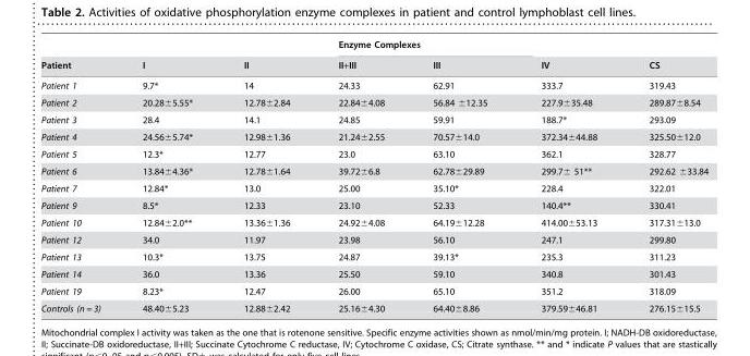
<table><thead><tr><td rowspan="2">Patient</td><td rowspan="2">I</td><td rowspan="2">II</td><td colspan="2">Enzyme Complexes</td><td rowspan="2">IV</td><td rowspan="2">CS</td></tr><tr><td>II+III</td><td>III</td></tr></thead><tbody><tr><td>Patient 1</td><td>9.7*</td><td>14</td><td>24.33</td><td>62.91</td><td>333.7</td><td>319.43</td></tr><tr><td>Patient 2</td><td>20.28±5.55*</td><td>12.78±2.84</td><td>22.84±4.08</td><td>56.84 ±12.35</td><td>227.9±35.48</td><td>289.87±8.54</td></tr><tr><td>Patient 3</td><td>28.4</td><td>14.1</td><td>24.85</td><td>59.91</td><td>188.7*</td><td>293.09</td></tr><tr><td>Patient 4</td><td>24.56±5.74*</td><td>12.98±1.36</td><td>21.24±2.55</td><td>70.57±14.0</td><td>372.34±44.88</td><td>325.50±12.0</td></tr><tr><td>Patient 5</td><td>12.3*</td><td>12.77</td><td>23.0</td><td>63.10</td><td>362.1</td><td>328.77</td></tr><tr><td>Patient 6</td><td>13.84±4.36*</td><td>12.78±1.64</td><td>39.72±6.8</td><td>62.78±29.89</td><td>299.7± 51**</td><td>292.62 ±33.84</td></tr><tr><td>Patient 7</td><td>12.84*</td><td>13.0</td><td>25.00</td><td>35.10*</td><td>228.4</td><td>322.01</td></tr><tr><td>Patient 9</td><td>8.5*</td><td>12.33</td><td>23.10</td><td>52.33</td><td>140.4**</td><td>330.41</td></tr><tr><td>Patient 10</td><td>12.84±2.0**</td><td>13.36±1.36</td><td>24.92±4.08</td><td>64.19±12.28</td><td>414.00±53.13</td><td>317.31±13.0</td></tr><tr><td>Patient 12</td><td>34.0</td><td>11.97</td><td>23.98</td><td>56.10</td><td>247.1</td><td>299.80</td></tr><tr><td>Patient 13</td><td>10.3*</td><td>13.75</td><td>24.87</td><td>39.13*</td><td>235.3</td><td>311.23</td></tr><tr><td>Patient 14</td><td>36.0</td><td>13.36</td><td>25.50</td><td>59.10</td><td>340.8</td><td>301.43</td></tr><tr><td>Patient 19</td><td>8.23*</td><td>12.47</td><td>26.00</td><td>65.10</td><td>351.2</td><td>318.09</td></tr><tr><td>Controls (n = 3)</td><td>48.40±5.23</td><td>12.88±2.42</td><td>25.16±4.30</td><td>64.40±8.86</td><td>379.59±46.81</td><td>276.15±15.5</td></tr></tbody></table>